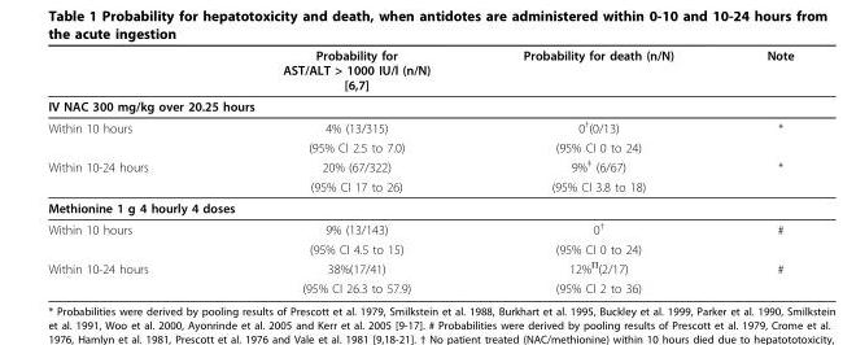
<table><thead><tr><td></td><td>Probability for AST/ALT &gt; 1000 IU/l (n/N) [6,7]</td><td>Probability for death (n/N)</td><td>Note</td></tr></thead><tbody><tr><td colspan="4">IV NAC 300 mg/kg over 20.25 hours</td></tr><tr><td rowspan="2">Within 10 hours</td><td>4% (13/315)</td><td>0<sup>†</sup>(0/13)</td><td>*</td></tr><tr><td>(95% CI 2.5 to 7.0)</td><td>(95% CI 0 to 24)</td><td></td></tr><tr><td rowspan="2">Within 10-24 hours</td><td>20% (67/322)</td><td>9%<sup>‡</sup> (6/67)</td><td>*</td></tr><tr><td>(95% CI 17 to 26)</td><td>(95% CI 3.8 to 18)</td><td></td></tr><tr><td colspan="4">Methionine 1 g 4 hourly 4 doses</td></tr><tr><td rowspan="2">Within 10 hours</td><td>9% (13/143)</td><td>0<sup>†</sup></td><td>#</td></tr><tr><td>(95% CI 4.5 to 15)</td><td>(95% CI 0 to 24)</td><td></td></tr><tr><td rowspan="2">Within 10-24 hours</td><td>38%(17/41)</td><td>12%<sup>Π</sup>(2/17)</td><td>#</td></tr><tr><td>(95% CI 26.3 to 57.9)</td><td>(95% CI 2 to 36)</td><td></td></tr></tbody></table>